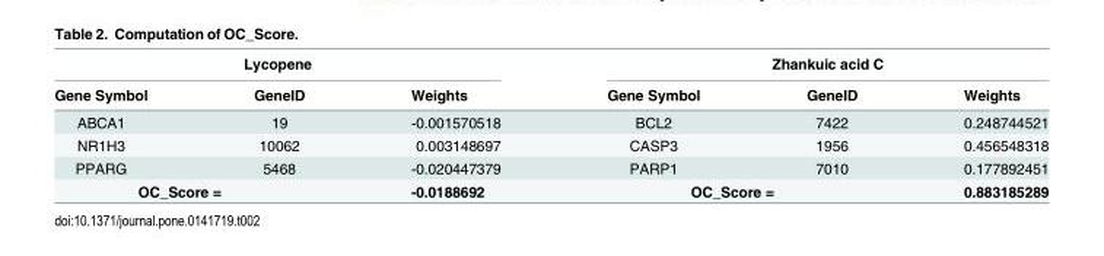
<table><thead><tr><td colspan="3">Lycopene</td><td colspan="3">Zhankuic acid C</td></tr><tr><td>Gene Symbol</td><td>GeneID</td><td>Weights</td><td>Gene Symbol</td><td>GeneID</td><td>Weights</td></tr></thead><tbody><tr><td>ABCA1</td><td>19</td><td>-0.001570518</td><td>BCL2</td><td>7422</td><td>0.248744521</td></tr><tr><td>NR1H3</td><td>10062</td><td>0.003148697</td><td>CASP3</td><td>1956</td><td>0.456548318</td></tr><tr><td>PPARG</td><td>5468</td><td>-0.020447379</td><td>PARP1</td><td>7010</td><td>0.177892451</td></tr><tr><td colspan="2">OC_Score =</td><td>-0.0188692</td><td colspan="2">OC_Score =</td><td>0.883185289</td></tr></tbody></table>